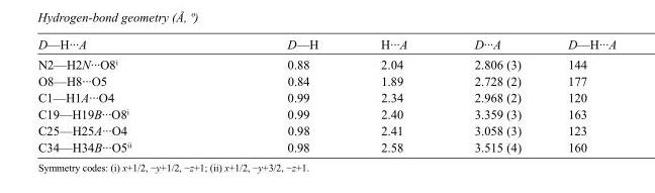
<table><tbody><tr><td>D—H···A</td><td>D—H</td><td>H···A</td><td>D···A</td><td>D—H···A</td></tr><tr><td>N2—H2N···O8<sup>i</sup></td><td>0.88</td><td>2.04</td><td>2.806 (3)</td><td>144</td></tr><tr><td>O8—H8···O5</td><td>0.84</td><td>1.89</td><td>2.728 (2)</td><td>177</td></tr><tr><td>C1—H1A···O4</td><td>0.99</td><td>2.34</td><td>2.968 (2)</td><td>120</td></tr><tr><td>C19—H19B···O8<sup>i</sup></td><td>0.99</td><td>2.40</td><td>3.359 (3)</td><td>163</td></tr><tr><td>C25—H25A···O4</td><td>0.98</td><td>2.41</td><td>3.058 (3)</td><td>123</td></tr><tr><td>C34—H34B···O5<sup>ii</sup></td><td>0.98</td><td>2.58</td><td>3.515 (4)</td><td>160</td></tr></tbody></table>